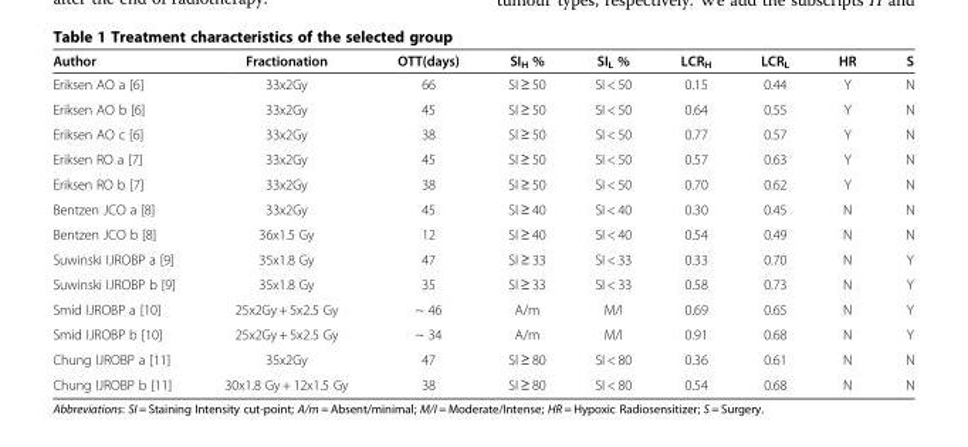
<table><thead><tr><td>Author</td><td>Fractionation</td><td>OTT(days)</td><td>SI<sub>H</sub> %</td><td>SI<sub>L</sub> %</td><td>LCR<sub>H</sub></td><td>LCR<sub>L</sub></td><td>HR</td><td>S</td></tr></thead><tbody><tr><td>Eriksen AO a [6]</td><td>33x2Gy</td><td>66</td><td>SI ≥ 50</td><td>SI &lt; 50</td><td>0.15</td><td>0.44</td><td>Y</td><td>N</td></tr><tr><td>Eriksen AO b [6]</td><td>33x2Gy</td><td>45</td><td>SI ≥ 50</td><td>SI &lt; 50</td><td>0.64</td><td>0.55</td><td>Y</td><td>N</td></tr><tr><td>Eriksen AO c [6]</td><td>33x2Gy</td><td>38</td><td>SI ≥ 50</td><td>SI &lt; 50</td><td>0.77</td><td>0.57</td><td>Y</td><td>N</td></tr><tr><td>Eriksen RO a [7]</td><td>33x2Gy</td><td>45</td><td>SI ≥ 50</td><td>SI &lt; 50</td><td>0.57</td><td>0.63</td><td>Y</td><td>N</td></tr><tr><td>Eriksen RO b [7]</td><td>33x2Gy</td><td>38</td><td>SI ≥ 50</td><td>SI &lt; 50</td><td>0.70</td><td>0.62</td><td>Y</td><td>N</td></tr><tr><td>Bentzen JCO a [8]</td><td>33x2Gy</td><td>45</td><td>SI ≥ 40</td><td>SI &lt; 40</td><td>0.30</td><td>0.45</td><td>N</td><td>N</td></tr><tr><td>Bentzen JCO b [8]</td><td>36x1.5 Gy</td><td>12</td><td>SI ≥ 40</td><td>SI &lt; 40</td><td>0.54</td><td>0.49</td><td>N</td><td>N</td></tr><tr><td>Suwinski IJROBP a [9]</td><td>35x1.8 Gy</td><td>47</td><td>SI ≥ 33</td><td>SI &lt; 33</td><td>0.33</td><td>0.70</td><td>N</td><td>Y</td></tr><tr><td>Suwinski IJROBP b [9]</td><td>35x1.8 Gy</td><td>35</td><td>SI ≥ 33</td><td>SI &lt; 33</td><td>0.58</td><td>0.73</td><td>N</td><td>Y</td></tr><tr><td>Smid IJROBP a [10]</td><td>25x2Gy + 5x2.5 Gy</td><td>~ 46</td><td>A/m</td><td>M/I</td><td>0.69</td><td>0.65</td><td>N</td><td>Y</td></tr><tr><td>Smid IJROBP b [10]</td><td>25x2Gy + 5x2.5 Gy</td><td>~ 34</td><td>A/m</td><td>M/I</td><td>0.91</td><td>0.68</td><td>N</td><td>Y</td></tr><tr><td>Chung IJROBP a [11]</td><td>35x2Gy</td><td>47</td><td>SI ≥ 80</td><td>SI &lt; 80</td><td>0.36</td><td>0.61</td><td>N</td><td>N</td></tr><tr><td>Chung IJROBP b [11]</td><td>30x1.8 Gy + 12x1.5 Gy</td><td>38</td><td>SI ≥ 80</td><td>SI &lt; 80</td><td>0.54</td><td>0.68</td><td>N</td><td>N</td></tr></tbody></table>